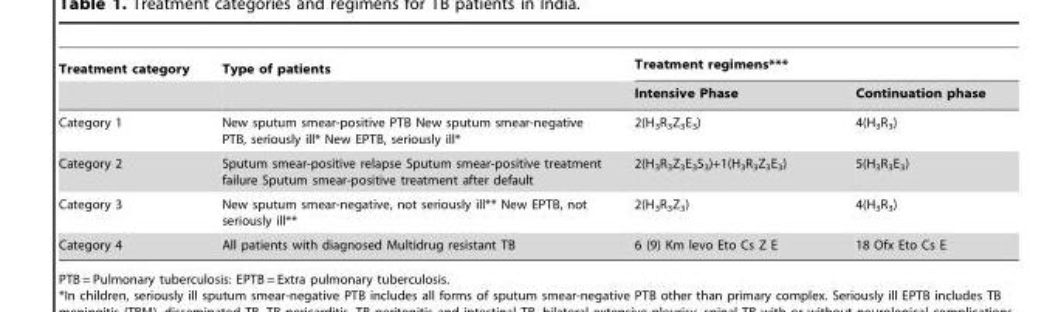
<table><thead><tr><td rowspan="2">Treatment category</td><td rowspan="2">Type of patients</td><td colspan="2">Treatment regimens***</td></tr><tr><td>Intensive Phase</td><td>Continuation phase</td></tr></thead><tbody><tr><td>Category 1</td><td>New sputum smear-positive PTB New sputum smear-negative PTB, seriously ill* New EPTB, seriously ill*</td><td>2(H<sub>3</sub>R<sub>3</sub>Z<sub>3</sub>E<sub>3</sub>)</td><td>4(H<sub>3</sub>R<sub>3</sub>)</td></tr><tr><td>Category 2</td><td>Sputum smear-positive relapse Sputum smear-positive treatment failure Sputum smear-positive treatment after default</td><td>2(H<sub>3</sub>R<sub>3</sub>Z<sub>3</sub>E<sub>3</sub>S<sub>3</sub>)+1(H<sub>3</sub>R<sub>3</sub>Z<sub>3</sub>E<sub>3</sub>)</td><td>5(H<sub>3</sub>R<sub>3</sub>E<sub>3</sub>)</td></tr><tr><td>Category 3</td><td>New sputum smear-negative, not seriously ill** New EPTB, not seriously ill**</td><td>2(H<sub>3</sub>R<sub>3</sub>Z<sub>3</sub>)</td><td>4(H<sub>3</sub>R<sub>3</sub>)</td></tr><tr><td>Category 4</td><td>All patients with diagnosed Multidrug resistant TB</td><td>6 (9) Km levo Eto Cs Z E</td><td>18 Ofx Eto Cs E</td></tr></tbody></table>